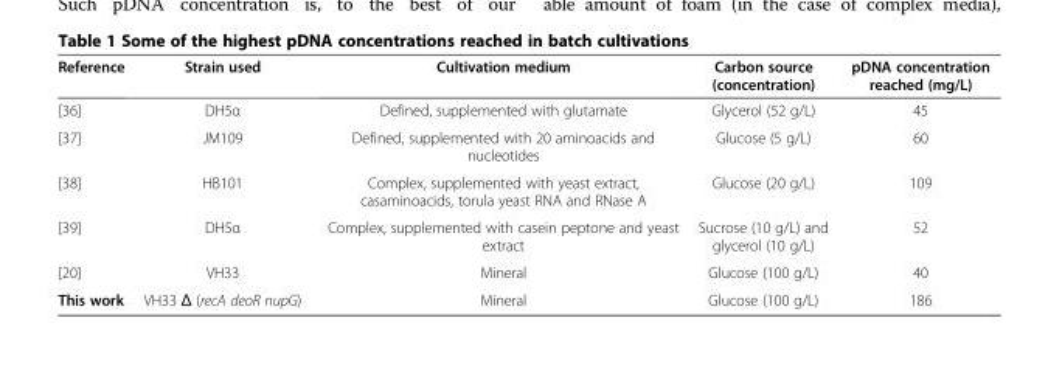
<table><thead><tr><td>Reference</td><td>Strain used</td><td>Cultivation medium</td><td>Carbon source (concentration)</td><td>pDNA concentration reached (mg/L)</td></tr></thead><tbody><tr><td>[36]</td><td>DH5α</td><td>Defined, supplemented with glutamate</td><td>Glycerol (52 g/L)</td><td>45</td></tr><tr><td>[37]</td><td>JM109</td><td>Defined, supplemented with 20 aminoacids and nucleotides</td><td>Glucose (5 g/L)</td><td>60</td></tr><tr><td>[38]</td><td>HB101</td><td>Complex, supplemented with yeast extract, casaminoacids, torula yeast RNA and RNase A</td><td>Glucose (20 g/L)</td><td>109</td></tr><tr><td>[39]</td><td>DH5α</td><td>Complex, supplemented with casein peptone and yeast extract</td><td>Sucrose (10 g/L) and glycerol (10 g/L)</td><td>52</td></tr><tr><td>[20]</td><td>VH33</td><td>Mineral</td><td>Glucose (100 g/L)</td><td>40</td></tr><tr><td>This work</td><td>VH33 Δ (recA deoR nupG)</td><td>Mineral</td><td>Glucose (100 g/L)</td><td>186</td></tr></tbody></table>